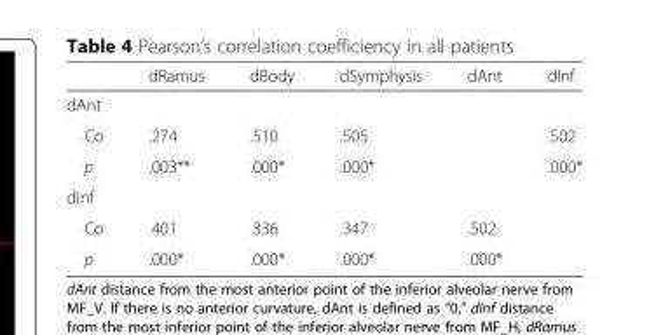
<table><thead><tr><td></td><td>dRamus</td><td>dBody</td><td>dSymphysis</td><td>dAnt</td><td>dInf</td></tr></thead><tbody><tr><td colspan="6">dAnt</td></tr><tr><td>Co</td><td>.274</td><td>.510</td><td>.505</td><td></td><td>.502</td></tr><tr><td>p</td><td>.003**</td><td>.000*</td><td>.000*</td><td></td><td>.000*</td></tr><tr><td colspan="6">dInf</td></tr><tr><td>Co</td><td>.401</td><td>.336</td><td>.347</td><td>.502</td><td></td></tr><tr><td>p</td><td>.000*</td><td>.000*</td><td>.000*</td><td>.000*</td><td></td></tr></tbody></table>